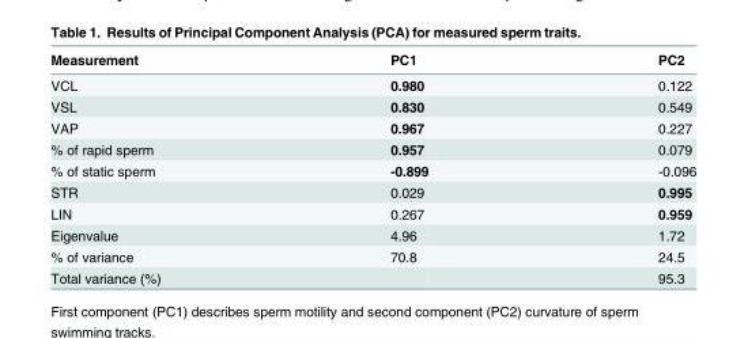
<table><thead><tr><td>Measurement</td><td>PC1</td><td>PC2</td></tr></thead><tbody><tr><td>VCL</td><td>0.980</td><td>0.122</td></tr><tr><td>VSL</td><td>0.830</td><td>0.549</td></tr><tr><td>VAP</td><td>0.967</td><td>0.227</td></tr><tr><td>% of rapid sperm</td><td>0.957</td><td>0.079</td></tr><tr><td>% of static sperm</td><td>-0.899</td><td>-0.096</td></tr><tr><td>STR</td><td>0.029</td><td>0.995</td></tr><tr><td>LIN</td><td>0.267</td><td>0.959</td></tr><tr><td>Eigenvalue</td><td>4.96</td><td>1.72</td></tr><tr><td>% of variance</td><td>70.8</td><td>24.5</td></tr><tr><td>Total variance (%)</td><td></td><td>95.3</td></tr></tbody></table>